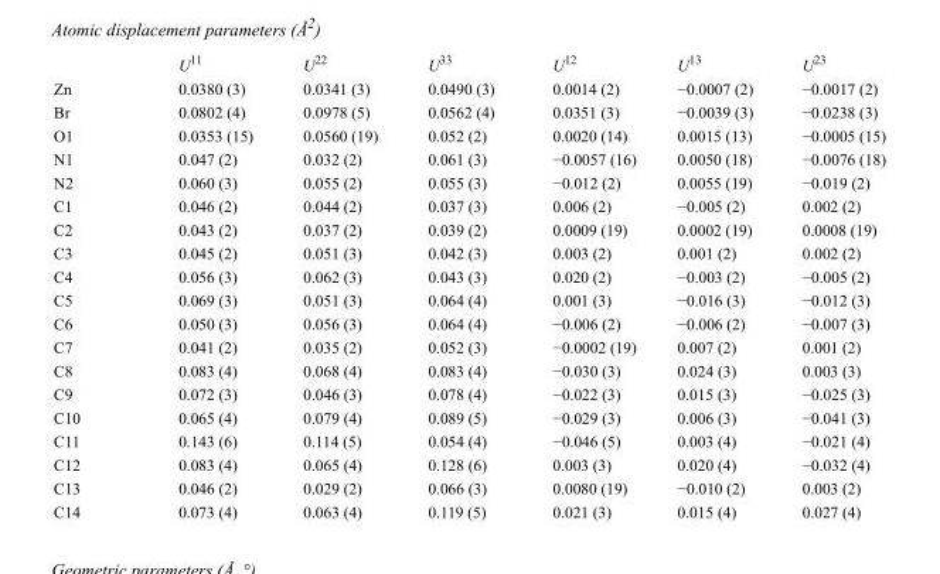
<table><thead><tr><td></td><td>U<sup>11</sup></td><td>U<sup>22</sup></td><td>U<sup>33</sup></td><td>U<sup>12</sup></td><td>U<sup>13</sup></td><td>U<sup>23</sup></td></tr></thead><tbody><tr><td>Zn</td><td>0.0380 (3)</td><td>0.0341 (3)</td><td>0.0490 (3)</td><td>0.0014 (2)</td><td>−0.0007 (2)</td><td>−0.0017 (2)</td></tr><tr><td>Br</td><td>0.0802 (4)</td><td>0.0978 (5)</td><td>0.0562 (4)</td><td>0.0351 (3)</td><td>−0.0039 (3)</td><td>−0.0238 (3)</td></tr><tr><td>O1</td><td>0.0353 (15)</td><td>0.0560 (19)</td><td>0.052 (2)</td><td>0.0020 (14)</td><td>0.0015 (13)</td><td>−0.0005 (15)</td></tr><tr><td>N1</td><td>0.047 (2)</td><td>0.032 (2)</td><td>0.061 (3)</td><td>−0.0057 (16)</td><td>0.0050 (18)</td><td>−0.0076 (18)</td></tr><tr><td>N2</td><td>0.060 (3)</td><td>0.055 (2)</td><td>0.055 (3)</td><td>−0.012 (2)</td><td>0.0055 (19)</td><td>−0.019 (2)</td></tr><tr><td>C1</td><td>0.046 (2)</td><td>0.044 (2)</td><td>0.037 (3)</td><td>0.006 (2)</td><td>−0.005 (2)</td><td>0.002 (2)</td></tr><tr><td>C2</td><td>0.043 (2)</td><td>0.037 (2)</td><td>0.039 (2)</td><td>0.0009 (19)</td><td>0.0002 (19)</td><td>0.0008 (19)</td></tr><tr><td>C3</td><td>0.045 (2)</td><td>0.051 (3)</td><td>0.042 (3)</td><td>0.003 (2)</td><td>0.001 (2)</td><td>0.002 (2)</td></tr><tr><td>C4</td><td>0.056 (3)</td><td>0.062 (3)</td><td>0.043 (3)</td><td>0.020 (2)</td><td>−0.003 (2)</td><td>−0.005 (2)</td></tr><tr><td>C5</td><td>0.069 (3)</td><td>0.051 (3)</td><td>0.064 (4)</td><td>0.001 (3)</td><td>−0.016 (3)</td><td>−0.012 (3)</td></tr><tr><td>C6</td><td>0.050 (3)</td><td>0.056 (3)</td><td>0.064 (4)</td><td>−0.006 (2)</td><td>−0.006 (2)</td><td>−0.007 (3)</td></tr><tr><td>C7</td><td>0.041 (2)</td><td>0.035 (2)</td><td>0.052 (3)</td><td>−0.0002 (19)</td><td>0.007 (2)</td><td>0.001 (2)</td></tr><tr><td>C8</td><td>0.083 (4)</td><td>0.068 (4)</td><td>0.083 (4)</td><td>−0.030 (3)</td><td>0.024 (3)</td><td>0.003 (3)</td></tr><tr><td>C9</td><td>0.072 (3)</td><td>0.046 (3)</td><td>0.078 (4)</td><td>−0.022 (3)</td><td>0.015 (3)</td><td>−0.025 (3)</td></tr><tr><td>C10</td><td>0.065 (4)</td><td>0.079 (4)</td><td>0.089 (5)</td><td>−0.029 (3)</td><td>0.006 (3)</td><td>−0.041 (3)</td></tr><tr><td>C11</td><td>0.143 (6)</td><td>0.114 (5)</td><td>0.054 (4)</td><td>−0.046 (5)</td><td>0.003 (4)</td><td>−0.021 (4)</td></tr><tr><td>C12</td><td>0.083 (4)</td><td>0.065 (4)</td><td>0.128 (6)</td><td>0.003 (3)</td><td>0.020 (4)</td><td>−0.032 (4)</td></tr><tr><td>C13</td><td>0.046 (2)</td><td>0.029 (2)</td><td>0.066 (3)</td><td>0.0080 (19)</td><td>−0.010 (2)</td><td>0.003 (2)</td></tr><tr><td>C14</td><td>0.073 (4)</td><td>0.063 (4)</td><td>0.119 (5)</td><td>0.021 (3)</td><td>0.015 (4)</td><td>0.027 (4)</td></tr></tbody></table>